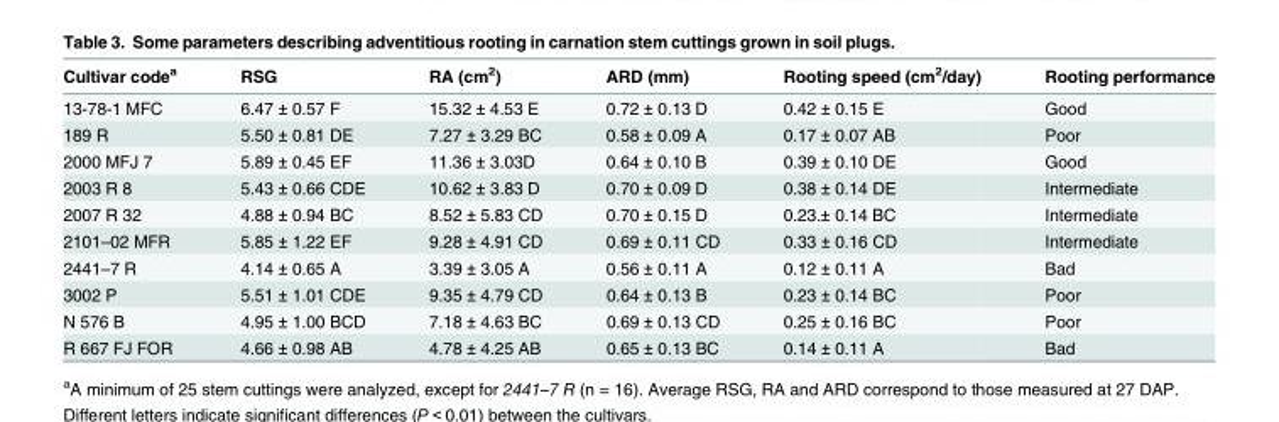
<table><thead><tr><td>Cultivar code<sup>a</sup></td><td>RSG</td><td>RA (cm<sup>2</sup>)</td><td>ARD (mm)</td><td>Rooting speed (cm<sup>2</sup>/day)</td><td>Rooting performance</td></tr></thead><tbody><tr><td>13-78-1 MFC</td><td>6.47 ± 0.57 F</td><td>15.32 ± 4.53 E</td><td>0.72 ± 0.13 D</td><td>0.42 ± 0.15 E</td><td>Good</td></tr><tr><td>189 R</td><td>5.50 ± 0.81 DE</td><td>7.27 ± 3.29 BC</td><td>0.58 ± 0.09 A</td><td>0.17 ± 0.07 AB</td><td>Poor</td></tr><tr><td>2000 MFJ 7</td><td>5.89 ± 0.45 EF</td><td>11.36 ± 3.03D</td><td>0.64 ± 0.10 B</td><td>0.39 ± 0.10 DE</td><td>Good</td></tr><tr><td>2003 R 8</td><td>5.43 ± 0.66 CDE</td><td>10.62 ± 3.83 D</td><td>0.70 ± 0.09 D</td><td>0.38 ± 0.14 DE</td><td>Intermediate</td></tr><tr><td>2007 R 32</td><td>4.88 ± 0.94 BC</td><td>8.52 ± 5.83 CD</td><td>0.70 ± 0.15 D</td><td>0.23.± 0.14 BC</td><td>Intermediate</td></tr><tr><td>2101–02 MFR</td><td>5.85 ± 1.22 EF</td><td>9.28 ± 4.91 CD</td><td>0.69 ± 0.11 CD</td><td>0.33 ± 0.16 CD</td><td>Intermediate</td></tr><tr><td>2441–7 R</td><td>4.14 ± 0.65 A</td><td>3.39 ± 3.05 A</td><td>0.56 ± 0.11 A</td><td>0.12 ± 0.11 A</td><td>Bad</td></tr><tr><td>3002 P</td><td>5.51 ± 1.01 CDE</td><td>9.35 ± 4.79 CD</td><td>0.64 ± 0.13 B</td><td>0.23 ± 0.14 BC</td><td>Poor</td></tr><tr><td>N 576 B</td><td>4.95 ± 1.00 BCD</td><td>7.18 ± 4.63 BC</td><td>0.69 ± 0.13 CD</td><td>0.25 ± 0.16 BC</td><td>Poor</td></tr><tr><td>R 667 FJ FOR</td><td>4.66 ± 0.98 AB</td><td>4.78 ± 4.25 AB</td><td>0.65 ± 0.13 BC</td><td>0.14 ± 0.11 A</td><td>Bad</td></tr></tbody></table>